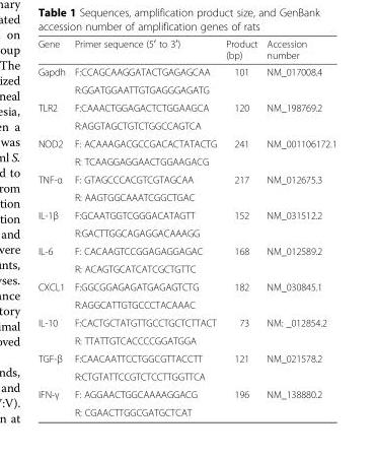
<table><thead><tr><td>Gene</td><td>Primer sequence (5ʹ to 3ʹ)</td><td>Product (bp)</td><td>Accession number</td></tr></thead><tbody><tr><td rowspan="2">Gapdh</td><td>F:CCAGCAAGGATACTGAGAGCAA</td><td rowspan="2">101</td><td rowspan="2">NM_017008.4</td></tr><tr><td>R:GGATGGAATTGTGAGGGAGATG</td></tr><tr><td rowspan="2">TLR2</td><td>F:CAAACTGGAGACTCTGGAAGCA</td><td rowspan="2">120</td><td rowspan="2">NM_198769.2</td></tr><tr><td>R:AGGTAGCTGTCTGGCCAGTCA</td></tr><tr><td rowspan="2">NOD2</td><td>F: ACAAAGACGCCGACACTATACTG</td><td rowspan="2">241</td><td rowspan="2">NM_001106172.1</td></tr><tr><td>R: TCAAGGAGGAACTGGAAGACG</td></tr><tr><td rowspan="2">TNF-α</td><td>F: GTAGCCCACGTCGTAGCAA</td><td rowspan="2">217</td><td rowspan="2">NM_012675.3</td></tr><tr><td>R: AAGTGGCAAATCGGCTGAC</td></tr><tr><td rowspan="2">IL-1β</td><td>F:GCAATGGTCGGGACATAGTT</td><td rowspan="2">152</td><td rowspan="2">NM_031512.2</td></tr><tr><td>R:GACTTGGCAGAGGACAAAGG</td></tr><tr><td rowspan="2">IL-6</td><td>F: CACAAGTCCGGAGAGGAGAC</td><td rowspan="2">168</td><td rowspan="2">NM_012589.2</td></tr><tr><td>R: ACAGTGCATCATCGCTGTTC</td></tr><tr><td rowspan="2">CXCL1</td><td>F:GGCGGAGAGATGAGAGTCTG</td><td rowspan="2">182</td><td rowspan="2">NM_030845.1</td></tr><tr><td>R:AGGCATTGTGCCCTACAAAC</td></tr><tr><td rowspan="2">IL-10</td><td>F:CACTGCTATGTTGCCTGCTCTTACT</td><td rowspan="2">73</td><td rowspan="2">NM: _012854.2</td></tr><tr><td>R: TTATTGTCACCCCGGATGGA</td></tr><tr><td rowspan="2">TGF-β</td><td>F:CAACAATTCCTGGCGTTACCTT</td><td rowspan="2">121</td><td rowspan="2">NM_021578.2</td></tr><tr><td>R:CTGTATTCCGTCTCCTTGGTTCA</td></tr><tr><td rowspan="2">IFN-γ</td><td>F: AGGAACTGGCAAAAGGACG</td><td rowspan="2">196</td><td rowspan="2">NM_138880.2</td></tr><tr><td>R: CGAACTTGGCGATGCTCAT</td></tr></tbody></table>